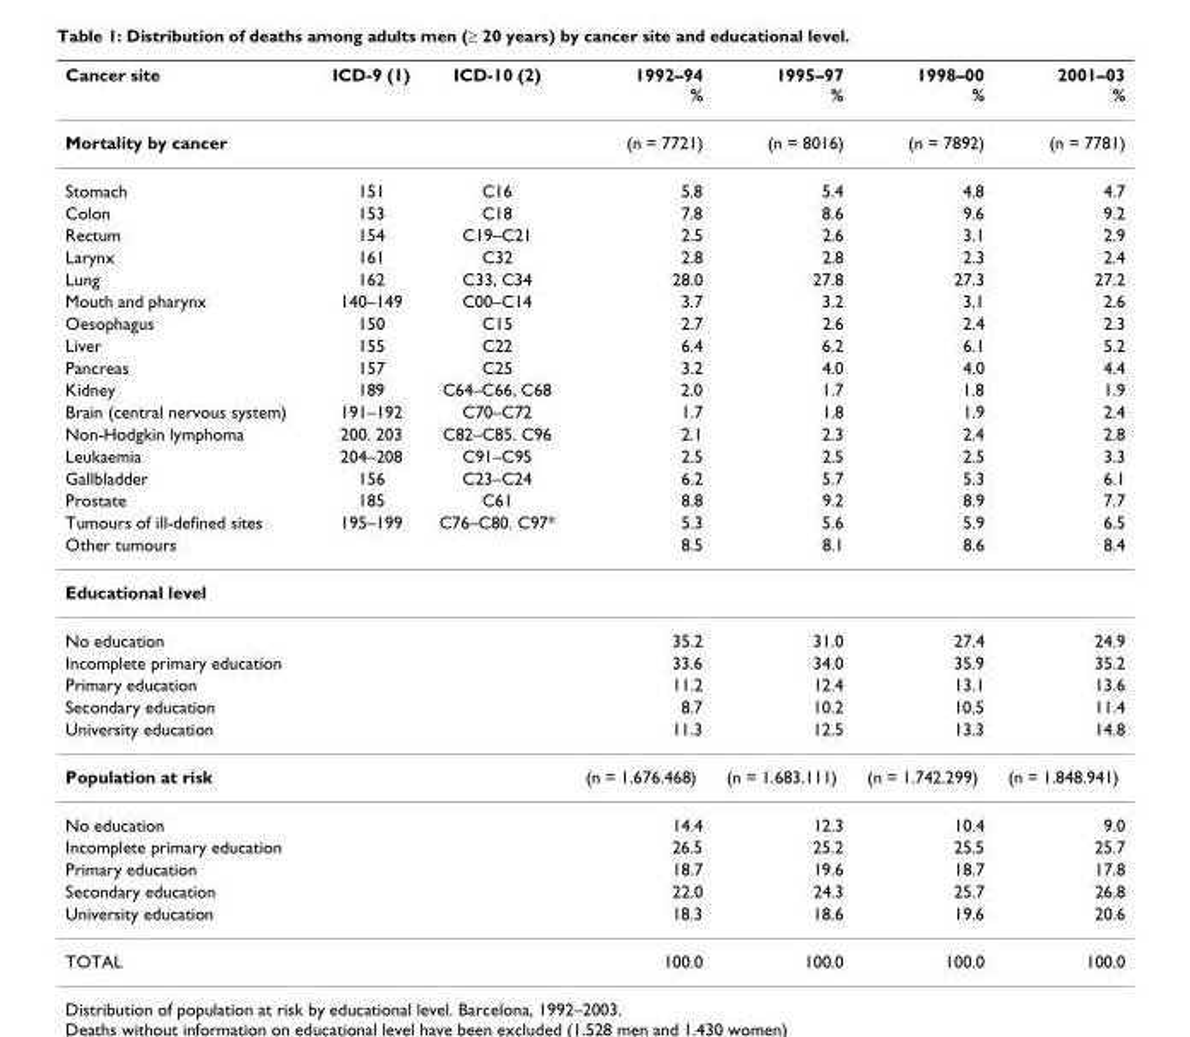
<table><thead><tr><td>Cancer site</td><td>ICD-9 (1)</td><td>ICD-10 (2)</td><td>1992–94 %</td><td>1995–97 %</td><td>1998–00 %</td><td>2001–03 %</td></tr></thead><tbody><tr><td>Mortality by cancer</td><td></td><td></td><td>(n = 7721)</td><td>(n = 8016)</td><td>(n = 7892)</td><td>(n = 7781)</td></tr><tr><td>Stomach</td><td>151</td><td>C16</td><td>5.8</td><td>5.4</td><td>4.8</td><td>4.7</td></tr><tr><td>Colon</td><td>153</td><td>C18</td><td>7.8</td><td>8.6</td><td>9.6</td><td>9.2</td></tr><tr><td>Rectum</td><td>154</td><td>C19–C21</td><td>2.5</td><td>2.6</td><td>3.1</td><td>2.9</td></tr><tr><td>Larynx</td><td>161</td><td>C32</td><td>2.8</td><td>2.8</td><td>2.3</td><td>2.4</td></tr><tr><td>Lung</td><td>162</td><td>C33, C34</td><td>28.0</td><td>27.8</td><td>27.3</td><td>27.2</td></tr><tr><td>Mouth and pharynx</td><td>140–149</td><td>C00–C14</td><td>3.7</td><td>3.2</td><td>3.1</td><td>2.6</td></tr><tr><td>Oesophagus</td><td>150</td><td>C15</td><td>2.7</td><td>2.6</td><td>2.4</td><td>2.3</td></tr><tr><td>Liver</td><td>155</td><td>C22</td><td>6.4</td><td>6.2</td><td>6.1</td><td>5.2</td></tr><tr><td>Pancreas</td><td>157</td><td>C25</td><td>3.2</td><td>4.0</td><td>4.0</td><td>4.4</td></tr><tr><td>Kidney</td><td>189</td><td>C64–C66, C68</td><td>2.0</td><td>1.7</td><td>1.8</td><td>1.9</td></tr><tr><td>Brain (central nervous system)</td><td>191–192</td><td>C70–C72</td><td>1.7</td><td>1.8</td><td>1.9</td><td>2.4</td></tr><tr><td>Non-Hodgkin lymphoma</td><td>200. 203</td><td>C82–C85. C96</td><td>2.1</td><td>2.3</td><td>2.4</td><td>2.8</td></tr><tr><td>Leukaemia</td><td>204–208</td><td>C91–C95</td><td>2.5</td><td>2.5</td><td>2.5</td><td>3.3</td></tr><tr><td>Gallbladder</td><td>156</td><td>C23–C24</td><td>6.2</td><td>5.7</td><td>5.3</td><td>6.1</td></tr><tr><td>Prostate</td><td>185</td><td>C61</td><td>8.8</td><td>9.2</td><td>8.9</td><td>7.7</td></tr><tr><td>Tumours of ill-defined sites</td><td>195–199</td><td>C76–C80. C97*</td><td>5.3</td><td>5.6</td><td>5.9</td><td>6.5</td></tr><tr><td>Other tumours</td><td></td><td></td><td>8.5</td><td>8.1</td><td>8.6</td><td>8.4</td></tr><tr><td colspan="7">Educational level</td></tr><tr><td>No education</td><td></td><td></td><td>35.2</td><td>31.0</td><td>27.4</td><td>24.9</td></tr><tr><td>Incomplete primary education</td><td></td><td></td><td>33.6</td><td>34.0</td><td>35.9</td><td>35.2</td></tr><tr><td>Primary education</td><td></td><td></td><td>11.2</td><td>12.4</td><td>13.1</td><td>13.6</td></tr><tr><td>Secondary education</td><td></td><td></td><td>8.7</td><td>10.2</td><td>10.5</td><td>11.4</td></tr><tr><td>University education</td><td></td><td></td><td>11.3</td><td>12.5</td><td>13.3</td><td>14.8</td></tr><tr><td>Population at risk</td><td></td><td></td><td>(n = 1.676.468)</td><td>(n = 1.683.111)</td><td>(n = 1.742.299)</td><td>(n = 1.848.941)</td></tr><tr><td>No education</td><td></td><td></td><td>14.4</td><td>12.3</td><td>10.4</td><td>9.0</td></tr><tr><td>Incomplete primary education</td><td></td><td></td><td>26.5</td><td>25.2</td><td>25.5</td><td>25.7</td></tr><tr><td>Primary education</td><td></td><td></td><td>18.7</td><td>19.6</td><td>18.7</td><td>17.8</td></tr><tr><td>Secondary education</td><td></td><td></td><td>22.0</td><td>24.3</td><td>25.7</td><td>26.8</td></tr><tr><td>University education</td><td></td><td></td><td>18.3</td><td>18.6</td><td>19.6</td><td>20.6</td></tr><tr><td>TOTAL</td><td></td><td></td><td>100.0</td><td>100.0</td><td>100.0</td><td>100.0</td></tr></tbody></table>